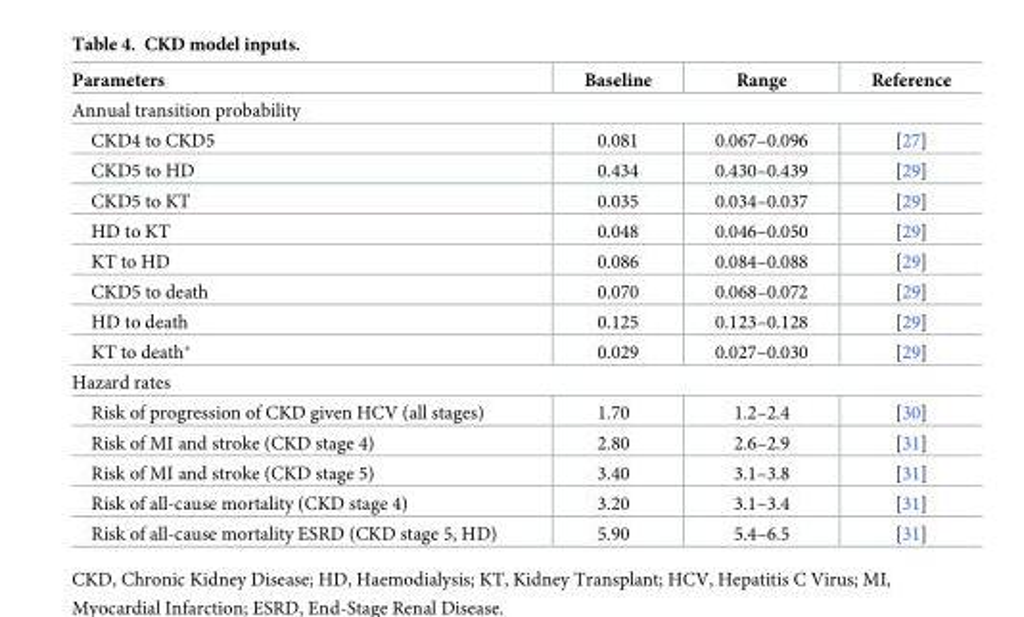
<table><thead><tr><td>Parameters</td><td>Baseline</td><td>Range</td><td>Reference</td></tr></thead><tbody><tr><td colspan="4">Annual transition probability</td></tr><tr><td>CKD4 to CKD5</td><td>0.081</td><td>0.067–0.096</td><td>[27]</td></tr><tr><td>CKD5 to HD</td><td>0.434</td><td>0.430–0.439</td><td>[29]</td></tr><tr><td>CKD5 to KT</td><td>0.035</td><td>0.034–0.037</td><td>[29]</td></tr><tr><td>HD to KT</td><td>0.048</td><td>0.046–0.050</td><td>[29]</td></tr><tr><td>KT to HD</td><td>0.086</td><td>0.084–0.088</td><td>[29]</td></tr><tr><td>CKD5 to death</td><td>0.070</td><td>0.068–0.072</td><td>[29]</td></tr><tr><td>HD to death</td><td>0.125</td><td>0.123–0.128</td><td>[29]</td></tr><tr><td>KT to death*</td><td>0.029</td><td>0.027–0.030</td><td>[29]</td></tr><tr><td colspan="4">Hazard rates</td></tr><tr><td>Risk of progression of CKD given HCV (all stages)</td><td>1.70</td><td>1.2–2.4</td><td>[30]</td></tr><tr><td>Risk of MI and stroke (CKD stage 4)</td><td>2.80</td><td>2.6–2.9</td><td>[31]</td></tr><tr><td>Risk of MI and stroke (CKD stage 5)</td><td>3.40</td><td>3.1–3.8</td><td>[31]</td></tr><tr><td>Risk of all-cause mortality (CKD stage 4)</td><td>3.20</td><td>3.1–3.4</td><td>[31]</td></tr><tr><td>Risk of all-cause mortality ESRD (CKD stage 5, HD)</td><td>5.90</td><td>5.4–6.5</td><td>[31]</td></tr></tbody></table>